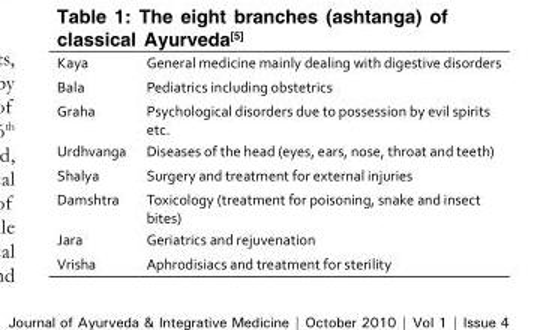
<table><tbody><tr><td>Kaya</td><td>General medicine mainly dealing with digestive disorders</td></tr><tr><td>Bala</td><td>Pediatrics including obstetrics</td></tr><tr><td>Graha</td><td>Psychological disorders due to possession by evil spirits etc.</td></tr><tr><td>Urdhvanga</td><td>Diseases of the head (eyes, ears, nose, throat and teeth)</td></tr><tr><td>Shalya</td><td>Surgery and treatment for external injuries</td></tr><tr><td>Damshtra</td><td>Toxicology (treatment for poisoning, snake and insect bites)</td></tr><tr><td>Jara</td><td>Geriatrics and rejuvenation</td></tr><tr><td>Vrisha</td><td>Aphrodisiacs and treatment for sterility</td></tr></tbody></table>